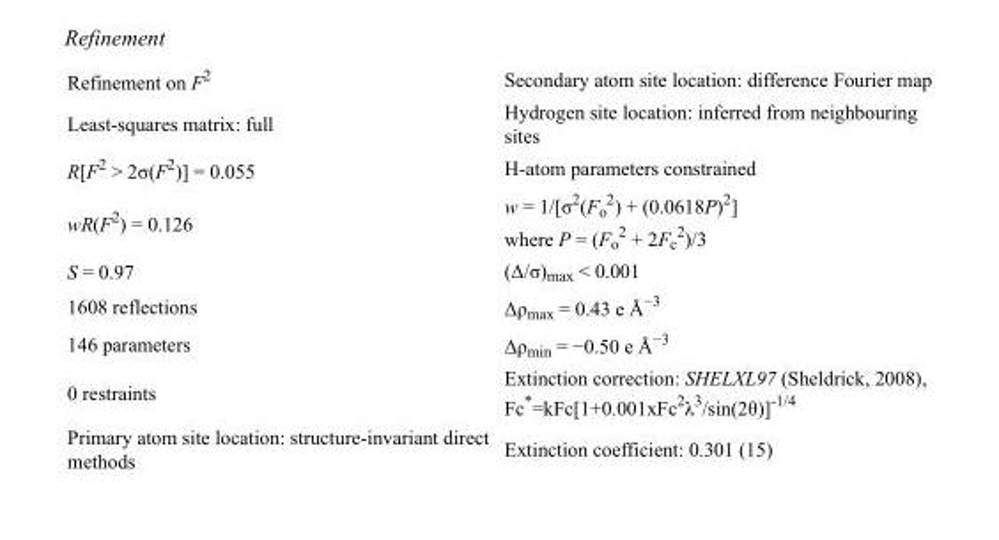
<table><tbody><tr><td>Refinement on F<sup>2</sup></td><td>Secondary atom site location: difference Fourier map</td></tr><tr><td>Least-squares matrix: full</td><td>Hydrogen site location: inferred from neighbouring sites</td></tr><tr><td>R[F<sup>2</sup> &gt; 2σ(F<sup>2</sup>)] = 0.055</td><td>H-atom parameters constrained</td></tr><tr><td>wR(F<sup>2</sup>) = 0.126</td><td>w = 1/[σ<sup>2</sup>(F<sub>o</sub> <sup>2</sup>) + (0.0618P)<sup>2</sup>] where P = (F<sub>o</sub> <sup>2</sup> + 2F<sub>c</sub> <sup>2</sup>)/3</td></tr><tr><td>S = 0.97</td><td>(Δ/σ)<sub>max</sub> &lt; 0.001</td></tr><tr><td>1608 reflections</td><td>Δρ<sub>max</sub> = 0.43 e Å<sup>−3</sup></td></tr><tr><td>146 parameters</td><td>Δρ<sub>min</sub> = −0.50 e Å<sup>−3</sup></td></tr><tr><td>0 restraints</td><td>Extinction correction: SHELXL97 (Sheldrick, 2008), Fc*=kFc[1+0.001xFc<sup>2</sup>λ<sup>3</sup>/sin(2θ)]<sup>-1/4</sup></td></tr><tr><td>Primary atom site location: structure-invariant direct methods</td><td>Extinction coefficient: 0.301 (15)</td></tr></tbody></table>